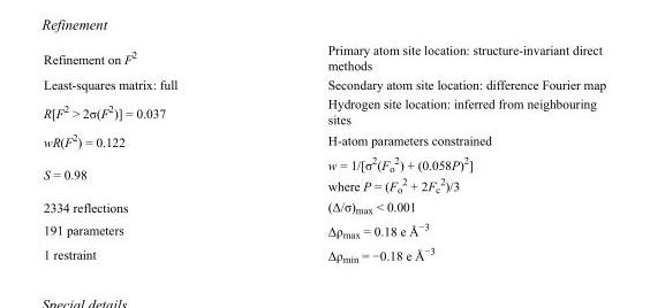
<table><tbody><tr><td>Refinement on F<sup>2</sup></td><td>Primary atom site location: structure-invariant direct methods</td></tr><tr><td>Least-squares matrix: full</td><td>Secondary atom site location: difference Fourier map</td></tr><tr><td>R[F<sup>2</sup> &gt; 2σ(F<sup>2</sup>)] = 0.037</td><td>Hydrogen site location: inferred from neighbouring sites</td></tr><tr><td>wR(F<sup>2</sup>) = 0.122</td><td>H-atom parameters constrained</td></tr><tr><td>S = 0.98</td><td>w = 1/[σ<sup>2</sup>(F<sub>o</sub> <sup>2</sup>) + (0.058P)<sup>2</sup>] where P = (F<sub>o</sub> <sup>2</sup> + 2F<sub>c</sub> <sup>2</sup>)/3</td></tr><tr><td>2334 reflections</td><td>(Δ/σ)<sub>max</sub> &lt; 0.001</td></tr><tr><td>191 parameters</td><td>Δρ<sub>max</sub> = 0.18 e Å<sup>−3</sup></td></tr><tr><td>1 restraint</td><td>Δρ<sub>min</sub> = −0.18 e Å<sup>−3</sup></td></tr></tbody></table>